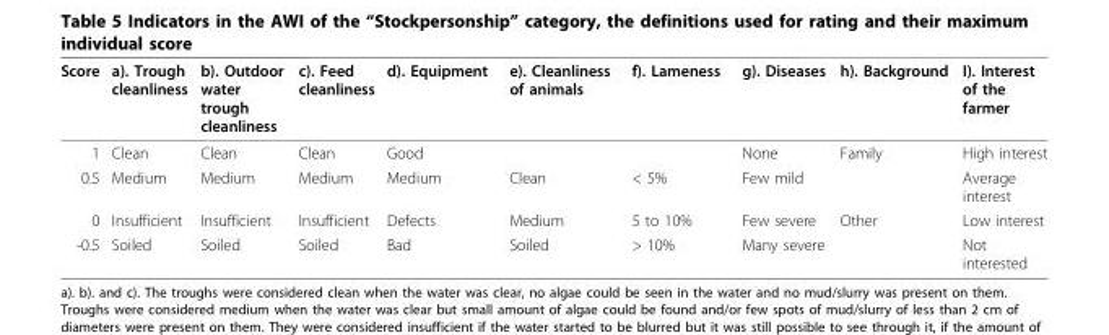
<table><thead><tr><td>Score</td><td>a). Trough cleanliness</td><td>b). Outdoor water trough cleanliness</td><td>c). Feed cleanliness</td><td>d). Equipment</td><td>e). Cleanliness of animals</td><td>f). Lameness</td><td>g). Diseases</td><td>h). Background</td><td>I). Interest of the farmer</td></tr></thead><tbody><tr><td>1</td><td>Clean</td><td>Clean</td><td>Clean</td><td>Good</td><td></td><td></td><td>None</td><td>Family</td><td>High interest</td></tr><tr><td>0.5</td><td>Medium</td><td>Medium</td><td>Medium</td><td>Medium</td><td>Clean</td><td>&lt; 5%</td><td>Few mild</td><td></td><td>Average interest</td></tr><tr><td>0</td><td>Insufficient</td><td>Insufficient</td><td>Insufficient</td><td>Defects</td><td>Medium</td><td>5 to 10%</td><td>Few severe</td><td>Other</td><td>Low interest</td></tr><tr><td>-0.5</td><td>Soiled</td><td>Soiled</td><td>Soiled</td><td>Bad</td><td>Soiled</td><td>&gt; 10%</td><td>Many severe</td><td></td><td>Not interested</td></tr></tbody></table>